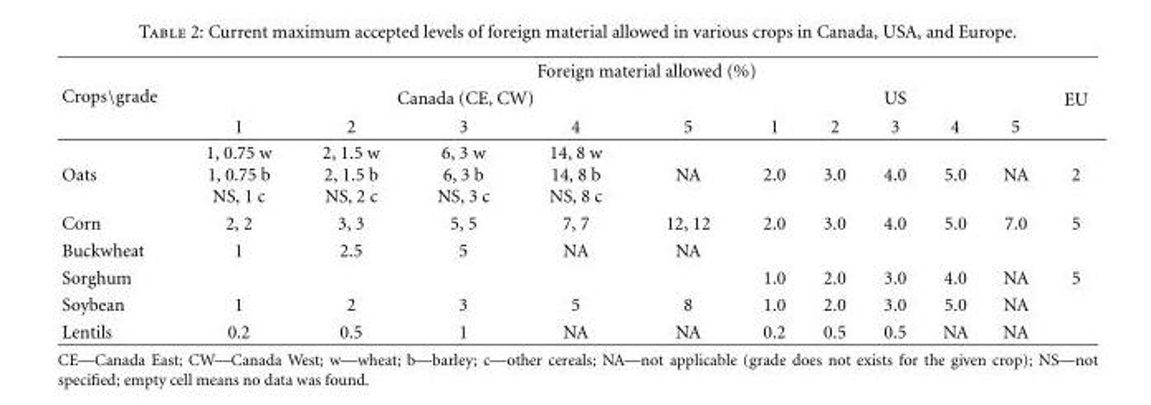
<table><thead><tr><td rowspan="3">Crops\grade</td><td colspan="11">Foreign material allowed (%)</td></tr><tr><td colspan="5">Canada (CE, CW)</td><td colspan="5">US</td><td rowspan="2">EU</td></tr><tr><td>1</td><td>2</td><td>3</td><td>4</td><td>5</td><td>1</td><td>2</td><td>3</td><td>4</td><td>5</td></tr></thead><tbody><tr><td>Oats</td><td>1, 0.75 w 1, 0.75 b NS, 1 c</td><td>2, 1.5 w 2, 1.5 b NS, 2 c</td><td>6, 3 w 6, 3 b NS, 3 c</td><td>14, 8 w 14, 8 b NS, 8 c</td><td>NA</td><td>2.0</td><td>3.0</td><td>4.0</td><td>5.0</td><td>NA</td><td>2</td></tr><tr><td>Corn</td><td>2, 2</td><td>3, 3</td><td>5, 5</td><td>7, 7</td><td>12, 12</td><td>2.0</td><td>3.0</td><td>4.0</td><td>5.0</td><td>7.0</td><td>5</td></tr><tr><td>Buckwheat</td><td>1</td><td>2.5</td><td>5</td><td>NA</td><td>NA</td><td></td><td></td><td></td><td></td><td></td><td></td></tr><tr><td>Sorghum</td><td></td><td></td><td></td><td></td><td></td><td>1.0</td><td>2.0</td><td>3.0</td><td>4.0</td><td>NA</td><td>5</td></tr><tr><td>Soybean</td><td>1</td><td>2</td><td>3</td><td>5</td><td>8</td><td>1.0</td><td>2.0</td><td>3.0</td><td>5.0</td><td>NA</td><td></td></tr><tr><td>Lentils</td><td>0.2</td><td>0.5</td><td>1</td><td>NA</td><td>NA</td><td>0.2</td><td>0.5</td><td>0.5</td><td>NA</td><td>NA</td><td></td></tr></tbody></table>